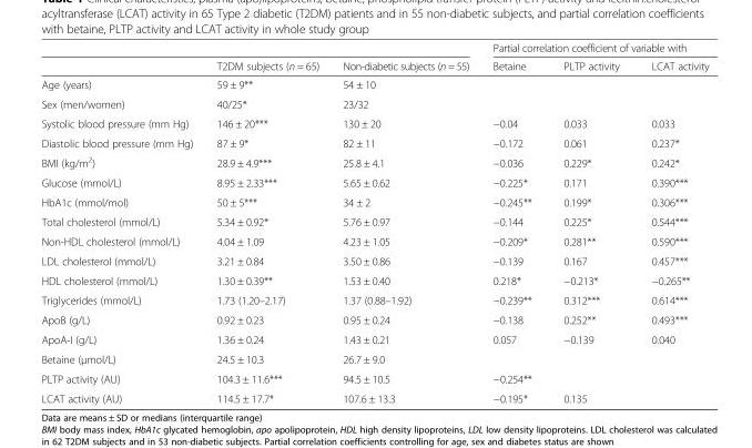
<table><thead><tr><td rowspan="2"></td><td rowspan="2">T2DM subjects (n = 65)</td><td rowspan="2">Non-diabetic subjects (n = 55)</td><td colspan="3">Partial correlation coefficient of variable with</td></tr><tr><td>Betaine</td><td>PLTP activity</td><td>LCAT activity</td></tr></thead><tbody><tr><td>Age (years)</td><td>59 ± 9**</td><td>54 ± 10</td><td></td><td></td><td></td></tr><tr><td>Sex (men/women)</td><td>40/25*</td><td>23/32</td><td></td><td></td><td></td></tr><tr><td>Systolic blood pressure (mm Hg)</td><td>146 ± 20***</td><td>130 ± 20</td><td>−0.04</td><td>0.033</td><td>0.033</td></tr><tr><td>Diastolic blood pressure (mm Hg)</td><td>87 ± 9*</td><td>82 ± 11</td><td>−0.172</td><td>0.061</td><td>0.237*</td></tr><tr><td>BMI (kg/m<sup>2</sup>)</td><td>28.9 ± 4.9***</td><td>25.8 ± 4.1</td><td>−0.036</td><td>0.229*</td><td>0.242*</td></tr><tr><td>Glucose (mmol/L)</td><td>8.95 ± 2.33***</td><td>5.65 ± 0.62</td><td>−0.225*</td><td>0.171</td><td>0.390***</td></tr><tr><td>HbA1c (mmol/mol)</td><td>50 ± 5***</td><td>34 ± 2</td><td>−0.245**</td><td>0.199*</td><td>0.306***</td></tr><tr><td>Total cholesterol (mmol/L)</td><td>5.34 ± 0.92*</td><td>5.76 ± 0.97</td><td>−0.144</td><td>0.225*</td><td>0.544***</td></tr><tr><td>Non-HDL cholesterol (mmol/L)</td><td>4.04 ± 1.09</td><td>4.23 ± 1.05</td><td>−0.209*</td><td>0.281**</td><td>0.590***</td></tr><tr><td>LDL cholesterol (mmol/L)</td><td>3.21 ± 0.84</td><td>3.50 ± 0.86</td><td>−0.139</td><td>0.167</td><td>0.457***</td></tr><tr><td>HDL cholesterol (mmol/L)</td><td>1.30 ± 0.39**</td><td>1.53 ± 0.40</td><td>0.218*</td><td>−0.213*</td><td>−0.265**</td></tr><tr><td>Triglycerides (mmol/L)</td><td>1.73 (1.20–2.17)</td><td>1.37 (0.88–1.92)</td><td>−0.239**</td><td>0.312***</td><td>0.614***</td></tr><tr><td>ApoB (g/L)</td><td>0.92 ± 0.23</td><td>0.95 ± 0.24</td><td>−0.138</td><td>0.252**</td><td>0.493***</td></tr><tr><td>ApoA-I (g/L)</td><td>1.36 ± 0.24</td><td>1.43 ± 0.21</td><td>0.057</td><td>−0.139</td><td>0.040</td></tr><tr><td>Betaine (μmol/L)</td><td>24.5 ± 10.3</td><td>26.7 ± 9.0</td><td></td><td></td><td></td></tr><tr><td>PLTP activity (AU)</td><td>104.3 ± 11.6***</td><td>94.5 ± 10.5</td><td>−0.254**</td><td></td><td></td></tr><tr><td>LCAT activity (AU)</td><td>114.5 ± 17.7*</td><td>107.6 ± 13.3</td><td>−0.195*</td><td>0.135</td><td></td></tr></tbody></table>